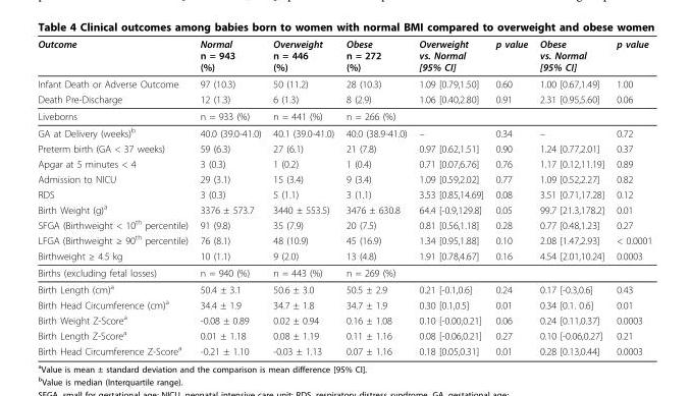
<table><thead><tr><td>Outcome</td><td>Normal n = 943 (%)</td><td>Overweight n = 446 (%)</td><td>Obese n = 272 (%)</td><td>Overweight vs. Normal [95% CI]</td><td>p value</td><td>Obese vs. Normal [95% CI]</td><td>p value</td></tr></thead><tbody><tr><td>Infant Death or Adverse Outcome</td><td>97 (10.3)</td><td>50 (11.2)</td><td>28 (10.3)</td><td>1.09 [0.79,1.50]</td><td>0.60</td><td>1.00 [0.67,1.49]</td><td>1.00</td></tr><tr><td>Death Pre-Discharge</td><td>12 (1.3)</td><td>6 (1.3)</td><td>8 (2.9)</td><td>1.06 [0.40,2.80]</td><td>0.91</td><td>2.31 [0.95,5.60]</td><td>0.06</td></tr><tr><td>Liveborns</td><td>n = 933 (%)</td><td>n = 441 (%)</td><td>n = 266 (%)</td><td></td><td></td><td></td><td></td></tr><tr><td>GA at Delivery (weeks)<sup>b</sup></td><td>40.0 (39.0-41.0)</td><td>40.1 (39.0-41.0)</td><td>40.0 (38.9-41.0)</td><td>–</td><td>0.34</td><td>–</td><td>0.72</td></tr><tr><td>Preterm birth (GA &lt; 37 weeks)</td><td>59 (6.3)</td><td>27 (6.1)</td><td>21 (7.8)</td><td>0.97 [0.62,1.51]</td><td>0.90</td><td>1.24 [0.77,2.01]</td><td>0.37</td></tr><tr><td>Apgar at 5 minutes &lt; 4</td><td>3 (0.3)</td><td>1 (0.2)</td><td>1 (0.4)</td><td>0.71 [0.07,6.76]</td><td>0.76</td><td>1.17 [0.12,11.19]</td><td>0.89</td></tr><tr><td>Admission to NICU</td><td>29 (3.1)</td><td>15 (3.4)</td><td>9 (3.4)</td><td>1.09 [0.59,2.02]</td><td>0.77</td><td>1.09 [0.52,2.27]</td><td>0.82</td></tr><tr><td>RDS</td><td>3 (0.3)</td><td>5 (1.1)</td><td>3 (1.1)</td><td>3.53 [0.85,14.69]</td><td>0.08</td><td>3.51 [0.71,17.28]</td><td>0.12</td></tr><tr><td>Birth Weight (g)<sup>a</sup></td><td>3376 ± 573.7</td><td>3440 ± 553.5)</td><td>3476 ± 630.8</td><td>64.4 [-0.9,129.8]</td><td>0.05</td><td>99.7 [21.3,178.2]</td><td>0.01</td></tr><tr><td>SFGA (Birthweight &lt; 10<sup>th</sup> percentile)</td><td>91 (9.8)</td><td>35 (7.9)</td><td>20 (7.5)</td><td>0.81 [0.56,1.18]</td><td>0.28</td><td>0.77 [0.48,1.23]</td><td>0.27</td></tr><tr><td>LFGA (Birthweight ≥ 90<sup>th</sup> percentile)</td><td>76 (8.1)</td><td>48 (10.9)</td><td>45 (16.9)</td><td>1.34 [0.95,1.88]</td><td>0.10</td><td>2.08 [1.47,2.93]</td><td>&lt; 0.0001</td></tr><tr><td>Birthweight ≥ 4.5 kg</td><td>10 (1.1)</td><td>9 (2.0)</td><td>13 (4.8)</td><td>1.91 [0.78,4.67]</td><td>0.16</td><td>4.54 [2.01,10.24]</td><td>0.0003</td></tr><tr><td>Births (excluding fetal losses)</td><td>n = 940 (%)</td><td>n = 443 (%)</td><td>n = 269 (%)</td><td></td><td></td><td></td><td></td></tr><tr><td>Birth Length (cm)<sup>a</sup></td><td>50.4 ± 3.1</td><td>50.6 ± 3.0</td><td>50.5 ± 2.9</td><td>0.21 [-0.1,0.6]</td><td>0.24</td><td>0.17 [-0.3,0.6]</td><td>0.43</td></tr><tr><td>Birth Head Circumference (cm)<sup>a</sup></td><td>34.4 ± 1.9</td><td>34.7 ± 1.8</td><td>34.7 ± 1.9</td><td>0.30 [0.1,0.5]</td><td>0.01</td><td>0.34 [0.1. 0.6]</td><td>0.01</td></tr><tr><td>Birth Weight Z-Score<sup>a</sup></td><td>-0.08 ± 0.89</td><td>0.02 ± 0.94</td><td>0.16 ± 1.08</td><td>0.10 [-0.00,0.21]</td><td>0.06</td><td>0.24 [0.11,0.37]</td><td>0.0003</td></tr><tr><td>Birth Length Z-Score<sup>a</sup></td><td>0.01 ± 1.18</td><td>0.08 ± 1.19</td><td>0.11 ± 1.16</td><td>0.08 [-0.06,0.21]</td><td>0.27</td><td>0.10 [-0.06,0.27]</td><td>0.21</td></tr><tr><td>Birth Head Circumference Z-Score<sup>a</sup></td><td>-0.21 ± 1.10</td><td>-0.03 ± 1.13</td><td>0.07 ± 1.16</td><td>0.18 [0.05,0.31]</td><td>0.01</td><td>0.28 [0.13,0.44]</td><td>0.0003</td></tr></tbody></table>